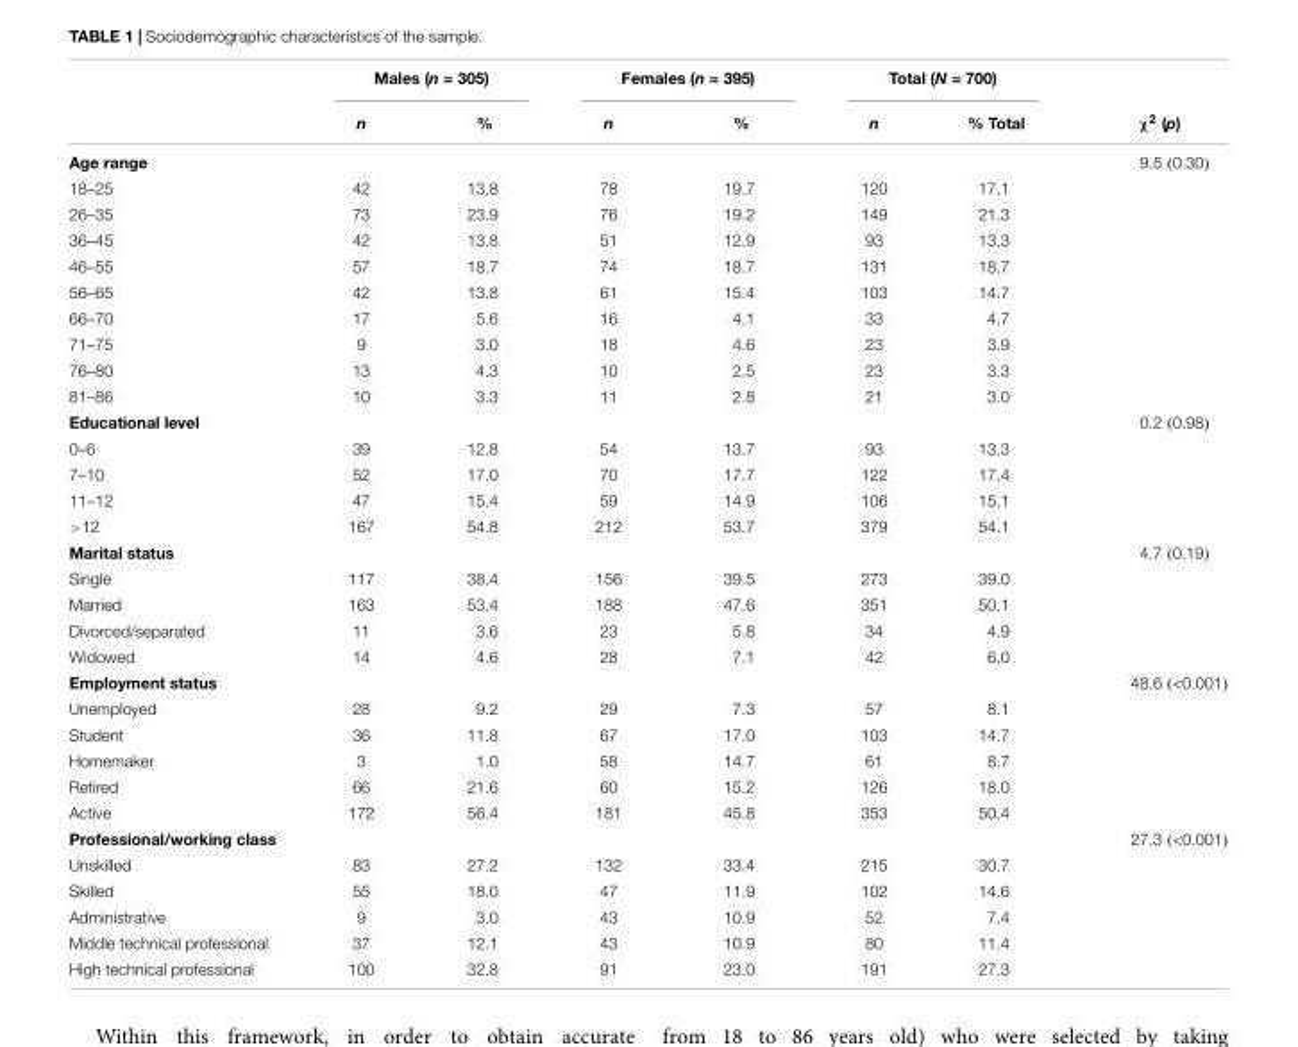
<table><thead><tr><td rowspan="2"></td><td colspan="2">Males (n = 305)</td><td colspan="2">Females (n = 395)</td><td colspan="2">Total (N = 700)</td><td rowspan="2">χ<sup>2</sup> (p)</td></tr><tr><td>n</td><td>%</td><td>n</td><td>%</td><td>n</td><td>% Total</td></tr></thead><tbody><tr><td>Age range</td><td></td><td></td><td></td><td></td><td></td><td></td><td>9.5 (0.30)</td></tr><tr><td>18–25</td><td>42</td><td>13.8</td><td>78</td><td>19.7</td><td>120</td><td>17.1</td><td></td></tr><tr><td>26–35</td><td>73</td><td>23.9</td><td>76</td><td>19.2</td><td>149</td><td>21.3</td><td></td></tr><tr><td>36–45</td><td>42</td><td>13.8</td><td>51</td><td>12.9</td><td>93</td><td>13.3</td><td></td></tr><tr><td>46–55</td><td>57</td><td>18.7</td><td>74</td><td>18.7</td><td>131</td><td>18.7</td><td></td></tr><tr><td>56–65</td><td>42</td><td>13.8</td><td>61</td><td>15.4</td><td>103</td><td>14.7</td><td></td></tr><tr><td>66–70</td><td>17</td><td>5.6</td><td>16</td><td>4.1</td><td>33</td><td>4.7</td><td></td></tr><tr><td>71–75</td><td>9</td><td>3.0</td><td>18</td><td>4.6</td><td>23</td><td>3.9</td><td></td></tr><tr><td>76–80</td><td>13</td><td>4.3</td><td>10</td><td>2.5</td><td>23</td><td>3.3</td><td></td></tr><tr><td>81–86</td><td>10</td><td>3.3</td><td>11</td><td>2.8</td><td>21</td><td>3.0</td><td></td></tr><tr><td>Educational level</td><td></td><td></td><td></td><td></td><td></td><td></td><td>0.2 (0.98)</td></tr><tr><td>0–6</td><td>39</td><td>12.8</td><td>54</td><td>13.7</td><td>93</td><td>13.3</td><td></td></tr><tr><td>7–10</td><td>52</td><td>17.0</td><td>70</td><td>17.7</td><td>122</td><td>17.4</td><td></td></tr><tr><td>11–12</td><td>47</td><td>15.4</td><td>59</td><td>14.9</td><td>106</td><td>15.1</td><td></td></tr><tr><td>&gt;12</td><td>167</td><td>54.8</td><td>212</td><td>53.7</td><td>379</td><td>54.1</td><td></td></tr><tr><td>Marital status</td><td></td><td></td><td></td><td></td><td></td><td></td><td>4.7 (0.19)</td></tr><tr><td>Single</td><td>117</td><td>38.4</td><td>156</td><td>39.5</td><td>273</td><td>39.0</td><td></td></tr><tr><td>Married</td><td>163</td><td>53.4</td><td>188</td><td>47.6</td><td>351</td><td>50.1</td><td></td></tr><tr><td>Divorced/separated</td><td>11</td><td>3.6</td><td>23</td><td>5.8</td><td>34</td><td>4.9</td><td></td></tr><tr><td>Widowed</td><td>14</td><td>4.6</td><td>28</td><td>7.1</td><td>42</td><td>6.0</td><td></td></tr><tr><td>Employment status</td><td></td><td></td><td></td><td></td><td></td><td></td><td>48.6 (&lt;0.001)</td></tr><tr><td>Unemployed</td><td>28</td><td>9.2</td><td>29</td><td>7.3</td><td>57</td><td>8.1</td><td></td></tr><tr><td>Student</td><td>36</td><td>11.8</td><td>67</td><td>17.0</td><td>103</td><td>14.7</td><td></td></tr><tr><td>Homemaker</td><td>3</td><td>1.0</td><td>58</td><td>14.7</td><td>61</td><td>8.7</td><td></td></tr><tr><td>Retired</td><td>66</td><td>21.6</td><td>60</td><td>15.2</td><td>126</td><td>18.0</td><td></td></tr><tr><td>Active</td><td>172</td><td>56.4</td><td>181</td><td>45.8</td><td>353</td><td>50.4</td><td></td></tr><tr><td>Professional/working class</td><td></td><td></td><td></td><td></td><td></td><td></td><td>27.3 (&lt;0.001)</td></tr><tr><td>Unskilled</td><td>83</td><td>27.2</td><td>132</td><td>33.4</td><td>215</td><td>30.7</td><td></td></tr><tr><td>Skilled</td><td>55</td><td>18.0</td><td>47</td><td>11.9</td><td>102</td><td>14.6</td><td></td></tr><tr><td>Administrative</td><td>9</td><td>3.0</td><td>43</td><td>10.9</td><td>52</td><td>7.4</td><td></td></tr><tr><td>Middle technical professional</td><td>37</td><td>12.1</td><td>43</td><td>10.9</td><td>80</td><td>11.4</td><td></td></tr><tr><td>High technical professional</td><td>100</td><td>32.8</td><td>91</td><td>23.0</td><td>191</td><td>27.3</td><td></td></tr></tbody></table>